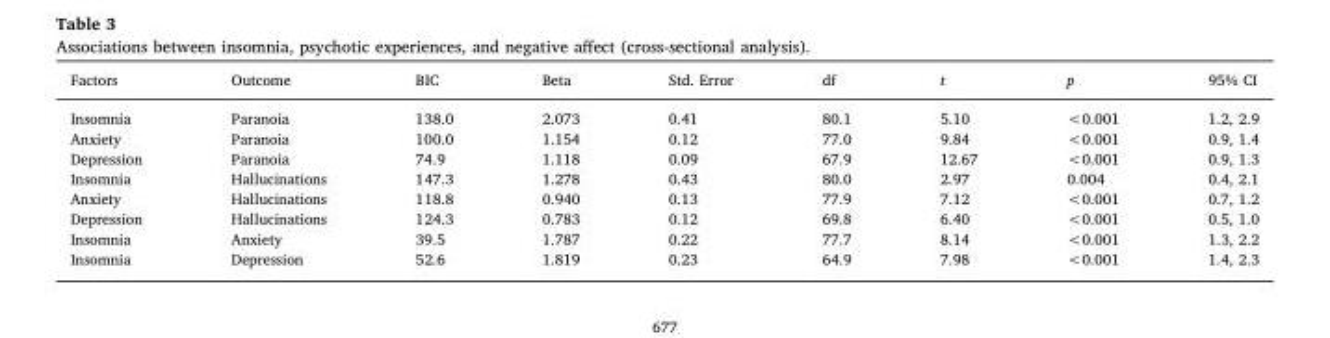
<table><thead><tr><td>Factors</td><td>Outcome</td><td>BIC</td><td>Beta</td><td>Std. Error</td><td>df</td><td>t</td><td>p</td><td>95% CI</td></tr></thead><tbody><tr><td>Insomnia</td><td>Paranoia</td><td>138.0</td><td>2.073</td><td>0.41</td><td>80.1</td><td>5.10</td><td>&lt;0.001</td><td>1.2, 2.9</td></tr><tr><td>Anxiety</td><td>Paranoia</td><td>100.0</td><td>1.154</td><td>0.12</td><td>77.0</td><td>9.84</td><td>&lt;0.001</td><td>0.9, 1.4</td></tr><tr><td>Depression</td><td>Paranoia</td><td>74.9</td><td>1.118</td><td>0.09</td><td>67.9</td><td>12.67</td><td>&lt;0.001</td><td>0.9, 1.3</td></tr><tr><td>Insomnia</td><td>Hallucinations</td><td>147.3</td><td>1.278</td><td>0.43</td><td>80.0</td><td>2.97</td><td>0.004</td><td>0.4, 2.1</td></tr><tr><td>Anxiety</td><td>Hallucinations</td><td>118.8</td><td>0.940</td><td>0.13</td><td>77.9</td><td>7.12</td><td>&lt;0.001</td><td>0.7, 1.2</td></tr><tr><td>Depression</td><td>Hallucinations</td><td>124.3</td><td>0.783</td><td>0.12</td><td>69.8</td><td>6.40</td><td>&lt;0.001</td><td>0.5, 1.0</td></tr><tr><td>Insomnia</td><td>Anxiety</td><td>39.5</td><td>1.787</td><td>0.22</td><td>77.7</td><td>8.14</td><td>&lt;0.001</td><td>1.3, 2.2</td></tr><tr><td>Insomnia</td><td>Depression</td><td>52.6</td><td>1.819</td><td>0.23</td><td>64.9</td><td>7.98</td><td>&lt;0.001</td><td>1.4, 2.3</td></tr></tbody></table>